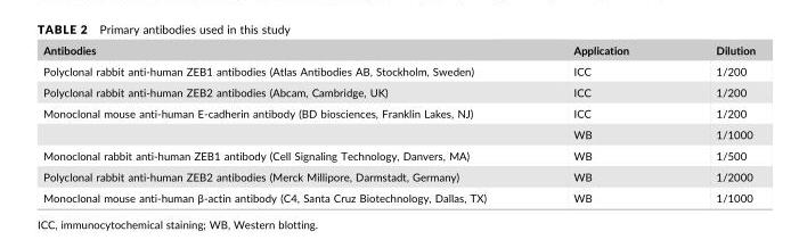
<table><thead><tr><td>Antibodies</td><td>Application</td><td>Dilution</td></tr></thead><tbody><tr><td>Polyclonal rabbit anti-human ZEB1 antibodies (Atlas Antibodies AB, Stockholm, Sweden)</td><td>ICC</td><td>1/200</td></tr><tr><td>Polyclonal rabbit anti-human ZEB2 antibodies (Abcam, Cambridge, UK)</td><td>ICC</td><td>1/200</td></tr><tr><td rowspan="2">Monoclonal mouse anti-human E-cadherin antibody (BD biosciences, Franklin Lakes, NJ)</td><td>ICC</td><td>1/200</td></tr><tr><td>WB</td><td>1/1000</td></tr><tr><td>Monoclonal rabbit anti-human ZEB1 antibody (Cell Signaling Technology, Danvers, MA)</td><td>WB</td><td>1/500</td></tr><tr><td>Polyclonal rabbit anti-human ZEB2 antibodies (Merck Millipore, Darmstadt, Germany)</td><td>WB</td><td>1/2000</td></tr><tr><td>Monoclonal mouse anti-human β-actin antibody (C4, Santa Cruz Biotechnology, Dallas, TX)</td><td>WB</td><td>1/1000</td></tr></tbody></table>